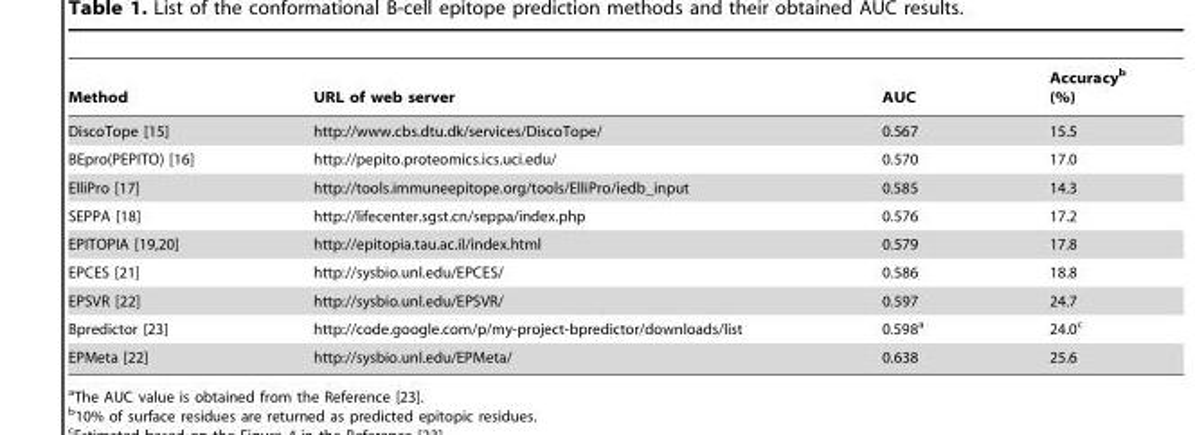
<table><thead><tr><td>Method</td><td>URL of web server</td><td>AUC</td><td>Accuracy<sup>b</sup> (%)</td></tr></thead><tbody><tr><td>DiscoTope [15]</td><td>http://www.cbs.dtu.dk/services/DiscoTope/</td><td>0.567</td><td>15.5</td></tr><tr><td>BEpro(PEPITO) [16]</td><td>http://pepito.proteomics.ics.uci.edu/</td><td>0.570</td><td>17.0</td></tr><tr><td>ElliPro [17]</td><td>http://tools.immuneepitope.org/tools/ElliPro/iedb_input</td><td>0.585</td><td>14.3</td></tr><tr><td>SEPPA [18]</td><td>http://lifecenter.sgst.cn/seppa/index.php</td><td>0.576</td><td>17.2</td></tr><tr><td>EPITOPIA [19,20]</td><td>http://epitopia.tau.ac.il/index.html</td><td>0.579</td><td>17.8</td></tr><tr><td>EPCES [21]</td><td>http://sysbio.unl.edu/EPCES/</td><td>0.586</td><td>18.8</td></tr><tr><td>EPSVR [22]</td><td>http://sysbio.unl.edu/EPSVR/</td><td>0.597</td><td>24.7</td></tr><tr><td>Bpredictor [23]</td><td>http://code.google.com/p/my-project-bpredictor/downloads/list</td><td>0.598<sup>a</sup></td><td>24.0<sup>c</sup></td></tr><tr><td>EPMeta [22]</td><td>http://sysbio.unl.edu/EPMeta/</td><td>0.638</td><td>25.6</td></tr></tbody></table>